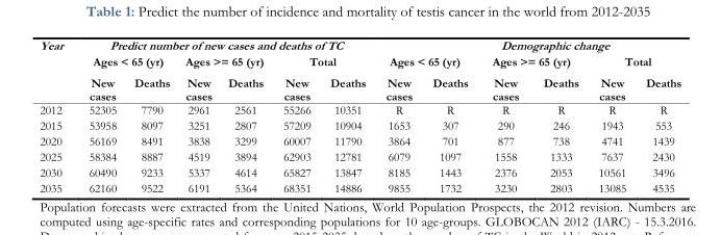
<table><thead><tr><td rowspan="3">Year</td><td colspan="6">Predict number of new cases and deaths of TC</td><td colspan="6">Demographic change</td></tr><tr><td colspan="2">Ages &lt; 65 (yr)</td><td colspan="2">Ages &gt;= 65 (yr)</td><td colspan="2">Total</td><td colspan="2">Ages &lt; 65 (yr)</td><td colspan="2">Ages &gt;= 65 (yr)</td><td colspan="2">Total</td></tr><tr><td>New cases</td><td>Deaths</td><td>New cases</td><td>Deaths</td><td>New cases</td><td>Deaths</td><td>New cases</td><td>Deaths</td><td>New cases</td><td>Deaths</td><td>New cases</td><td>Deaths</td></tr></thead><tbody><tr><td>2012</td><td>52305</td><td>7790</td><td>2961</td><td>2561</td><td>55266</td><td>10351</td><td>R</td><td>R</td><td>R</td><td>R</td><td>R</td><td>R</td></tr><tr><td>2015</td><td>53958</td><td>8097</td><td>3251</td><td>2807</td><td>57209</td><td>10904</td><td>1653</td><td>307</td><td>290</td><td>246</td><td>1943</td><td>553</td></tr><tr><td>2020</td><td>56169</td><td>8491</td><td>3838</td><td>3299</td><td>60007</td><td>11790</td><td>3864</td><td>701</td><td>877</td><td>738</td><td>4741</td><td>1439</td></tr><tr><td>2025</td><td>58384</td><td>8887</td><td>4519</td><td>3894</td><td>62903</td><td>12781</td><td>6079</td><td>1097</td><td>1558</td><td>1333</td><td>7637</td><td>2430</td></tr><tr><td>2030</td><td>60490</td><td>9233</td><td>5337</td><td>4614</td><td>65827</td><td>13847</td><td>8185</td><td>1443</td><td>2376</td><td>2053</td><td>10561</td><td>3496</td></tr><tr><td>2035</td><td>62160</td><td>9522</td><td>6191</td><td>5364</td><td>68351</td><td>14886</td><td>9855</td><td>1732</td><td>3230</td><td>2803</td><td>13085</td><td>4535</td></tr></tbody></table>